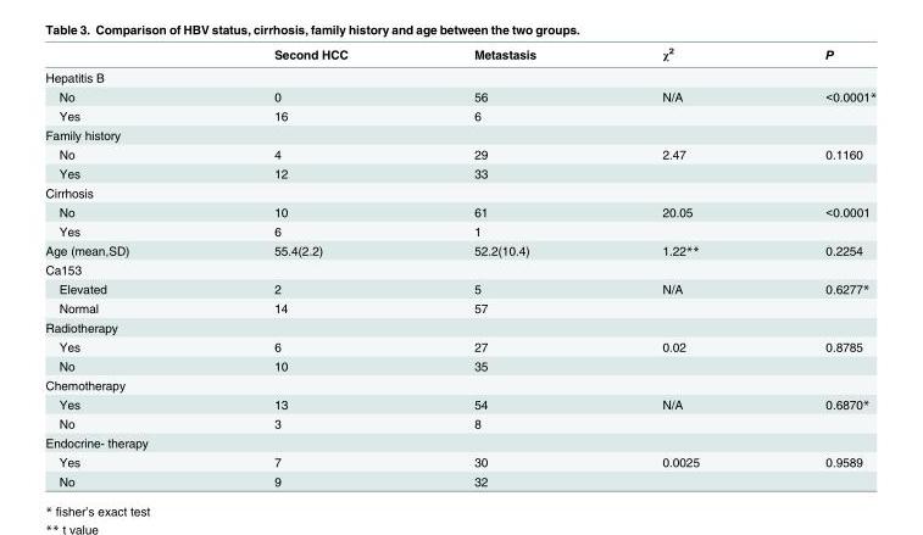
<table><thead><tr><td></td><td>Second HCC</td><td>Metastasis</td><td>χ<sup>2</sup></td><td>P</td></tr></thead><tbody><tr><td colspan="5">Hepatitis B</td></tr><tr><td>No</td><td>0</td><td>56</td><td>N/A</td><td>&lt;0.0001*</td></tr><tr><td>Yes</td><td>16</td><td>6</td><td></td><td></td></tr><tr><td colspan="5">Family history</td></tr><tr><td>No</td><td>4</td><td>29</td><td>2.47</td><td>0.1160</td></tr><tr><td>Yes</td><td>12</td><td>33</td><td></td><td></td></tr><tr><td colspan="5">Cirrhosis</td></tr><tr><td>No</td><td>10</td><td>61</td><td>20.05</td><td>&lt;0.0001</td></tr><tr><td>Yes</td><td>6</td><td>1</td><td></td><td></td></tr><tr><td>Age (mean,SD)</td><td>55.4(2.2)</td><td>52.2(10.4)</td><td>1.22**</td><td>0.2254</td></tr><tr><td colspan="5">Ca153</td></tr><tr><td>Elevated</td><td>2</td><td>5</td><td>N/A</td><td>0.6277*</td></tr><tr><td>Normal</td><td>14</td><td>57</td><td></td><td></td></tr><tr><td colspan="5">Radiotherapy</td></tr><tr><td>Yes</td><td>6</td><td>27</td><td>0.02</td><td>0.8785</td></tr><tr><td>No</td><td>10</td><td>35</td><td></td><td></td></tr><tr><td colspan="5">Chemotherapy</td></tr><tr><td>Yes</td><td>13</td><td>54</td><td>N/A</td><td>0.6870*</td></tr><tr><td>No</td><td>3</td><td>8</td><td></td><td></td></tr><tr><td colspan="5">Endocrine- therapy</td></tr><tr><td>Yes</td><td>7</td><td>30</td><td>0.0025</td><td>0.9589</td></tr><tr><td>No</td><td>9</td><td>32</td><td></td><td></td></tr></tbody></table>